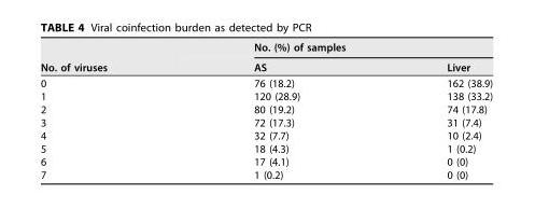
<table><thead><tr><td rowspan="2">No. of viruses</td><td colspan="2">No. (%) of samples</td></tr><tr><td>AS</td><td>Liver</td></tr></thead><tbody><tr><td>0</td><td>76 (18.2)</td><td>162 (38.9)</td></tr><tr><td>1</td><td>120 (28.9)</td><td>138 (33.2)</td></tr><tr><td>2</td><td>80 (19.2)</td><td>74 (17.8)</td></tr><tr><td>3</td><td>72 (17.3)</td><td>31 (7.4)</td></tr><tr><td>4</td><td>32 (7.7)</td><td>10 (2.4)</td></tr><tr><td>5</td><td>18 (4.3)</td><td>1 (0.2)</td></tr><tr><td>6</td><td>17 (4.1)</td><td>0 (0)</td></tr><tr><td>7</td><td>1 (0.2)</td><td>0 (0)</td></tr></tbody></table>